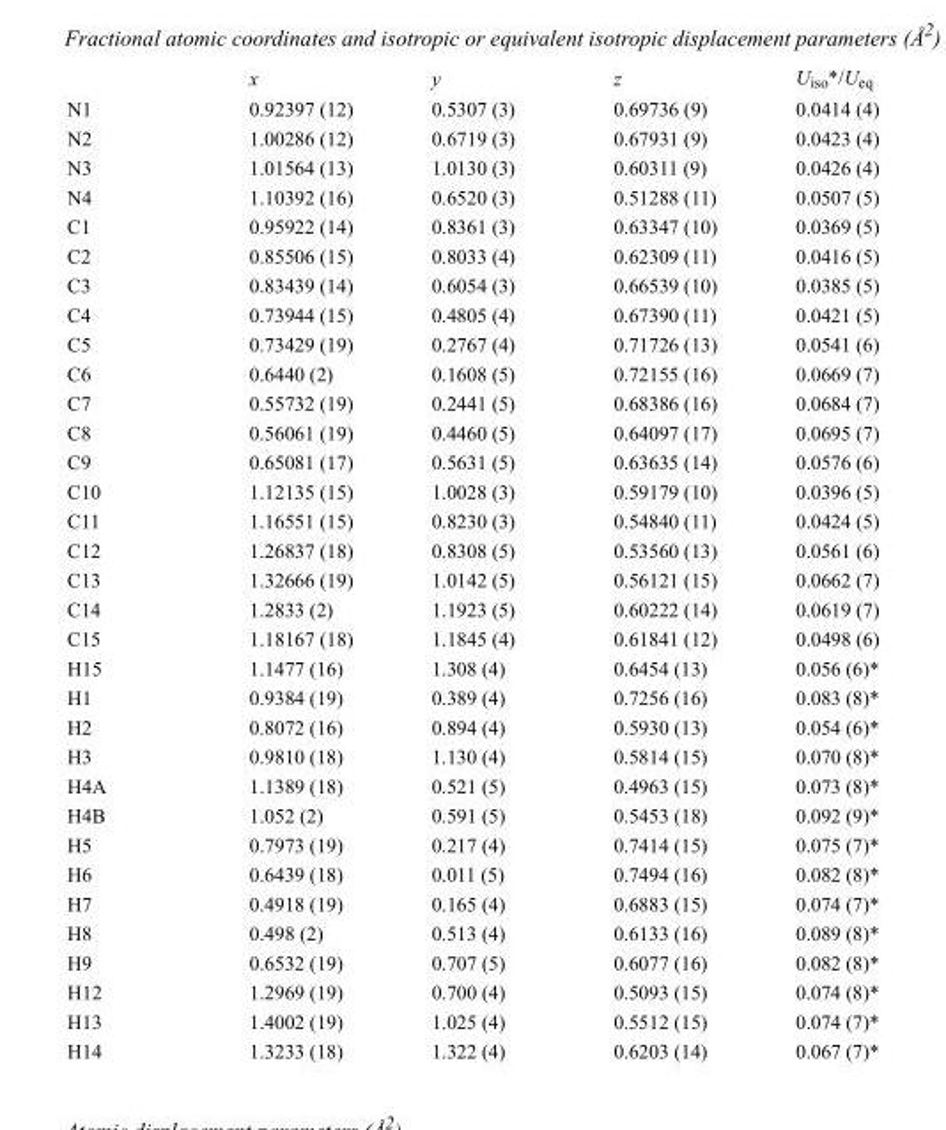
<table><thead><tr><td></td><td>x</td><td>y</td><td>z</td><td>U<sub>iso</sub>*/U<sub>eq</sub></td></tr></thead><tbody><tr><td>N1</td><td>0.92397 (12)</td><td>0.5307 (3)</td><td>0.69736 (9)</td><td>0.0414 (4)</td></tr><tr><td>N2</td><td>1.00286 (12)</td><td>0.6719 (3)</td><td>0.67931 (9)</td><td>0.0423 (4)</td></tr><tr><td>N3</td><td>1.01564 (13)</td><td>1.0130 (3)</td><td>0.60311 (9)</td><td>0.0426 (4)</td></tr><tr><td>N4</td><td>1.10392 (16)</td><td>0.6520 (3)</td><td>0.51288 (11)</td><td>0.0507 (5)</td></tr><tr><td>C1</td><td>0.95922 (14)</td><td>0.8361 (3)</td><td>0.63347 (10)</td><td>0.0369 (5)</td></tr><tr><td>C2</td><td>0.85506 (15)</td><td>0.8033 (4)</td><td>0.62309 (11)</td><td>0.0416 (5)</td></tr><tr><td>C3</td><td>0.83439 (14)</td><td>0.6054 (3)</td><td>0.66539 (10)</td><td>0.0385 (5)</td></tr><tr><td>C4</td><td>0.73944 (15)</td><td>0.4805 (4)</td><td>0.67390 (11)</td><td>0.0421 (5)</td></tr><tr><td>C5</td><td>0.73429 (19)</td><td>0.2767 (4)</td><td>0.71726 (13)</td><td>0.0541 (6)</td></tr><tr><td>C6</td><td>0.6440 (2)</td><td>0.1608 (5)</td><td>0.72155 (16)</td><td>0.0669 (7)</td></tr><tr><td>C7</td><td>0.55732 (19)</td><td>0.2441 (5)</td><td>0.68386 (16)</td><td>0.0684 (7)</td></tr><tr><td>C8</td><td>0.56061 (19)</td><td>0.4460 (5)</td><td>0.64097 (17)</td><td>0.0695 (7)</td></tr><tr><td>C9</td><td>0.65081 (17)</td><td>0.5631 (5)</td><td>0.63635 (14)</td><td>0.0576 (6)</td></tr><tr><td>C10</td><td>1.12135 (15)</td><td>1.0028 (3)</td><td>0.59179 (10)</td><td>0.0396 (5)</td></tr><tr><td>C11</td><td>1.16551 (15)</td><td>0.8230 (3)</td><td>0.54840 (11)</td><td>0.0424 (5)</td></tr><tr><td>C12</td><td>1.26837 (18)</td><td>0.8308 (5)</td><td>0.53560 (13)</td><td>0.0561 (6)</td></tr><tr><td>C13</td><td>1.32666 (19)</td><td>1.0142 (5)</td><td>0.56121 (15)</td><td>0.0662 (7)</td></tr><tr><td>C14</td><td>1.2833 (2)</td><td>1.1923 (5)</td><td>0.60222 (14)</td><td>0.0619 (7)</td></tr><tr><td>C15</td><td>1.18167 (18)</td><td>1.1845 (4)</td><td>0.61841 (12)</td><td>0.0498 (6)</td></tr><tr><td>H15</td><td>1.1477 (16)</td><td>1.308 (4)</td><td>0.6454 (13)</td><td>0.056 (6)*</td></tr><tr><td>H1</td><td>0.9384 (19)</td><td>0.389 (4)</td><td>0.7256 (16)</td><td>0.083 (8)*</td></tr><tr><td>H2</td><td>0.8072 (16)</td><td>0.894 (4)</td><td>0.5930 (13)</td><td>0.054 (6)*</td></tr><tr><td>H3</td><td>0.9810 (18)</td><td>1.130 (4)</td><td>0.5814 (15)</td><td>0.070 (8)*</td></tr><tr><td>H4A</td><td>1.1389 (18)</td><td>0.521 (5)</td><td>0.4963 (15)</td><td>0.073 (8)*</td></tr><tr><td>H4B</td><td>1.052 (2)</td><td>0.591 (5)</td><td>0.5453 (18)</td><td>0.092 (9)*</td></tr><tr><td>H5</td><td>0.7973 (19)</td><td>0.217 (4)</td><td>0.7414 (15)</td><td>0.075 (7)*</td></tr><tr><td>H6</td><td>0.6439 (18)</td><td>0.011 (5)</td><td>0.7494 (16)</td><td>0.082 (8)*</td></tr><tr><td>H7</td><td>0.4918 (19)</td><td>0.165 (4)</td><td>0.6883 (15)</td><td>0.074 (7)*</td></tr><tr><td>H8</td><td>0.498 (2)</td><td>0.513 (4)</td><td>0.6133 (16)</td><td>0.089 (8)*</td></tr><tr><td>H9</td><td>0.6532 (19)</td><td>0.707 (5)</td><td>0.6077 (16)</td><td>0.082 (8)*</td></tr><tr><td>H12</td><td>1.2969 (19)</td><td>0.700 (4)</td><td>0.5093 (15)</td><td>0.074 (8)*</td></tr><tr><td>H13</td><td>1.4002 (19)</td><td>1.025 (4)</td><td>0.5512 (15)</td><td>0.074 (7)*</td></tr><tr><td>H14</td><td>1.3233 (18)</td><td>1.322 (4)</td><td>0.6203 (14)</td><td>0.067 (7)*</td></tr></tbody></table>